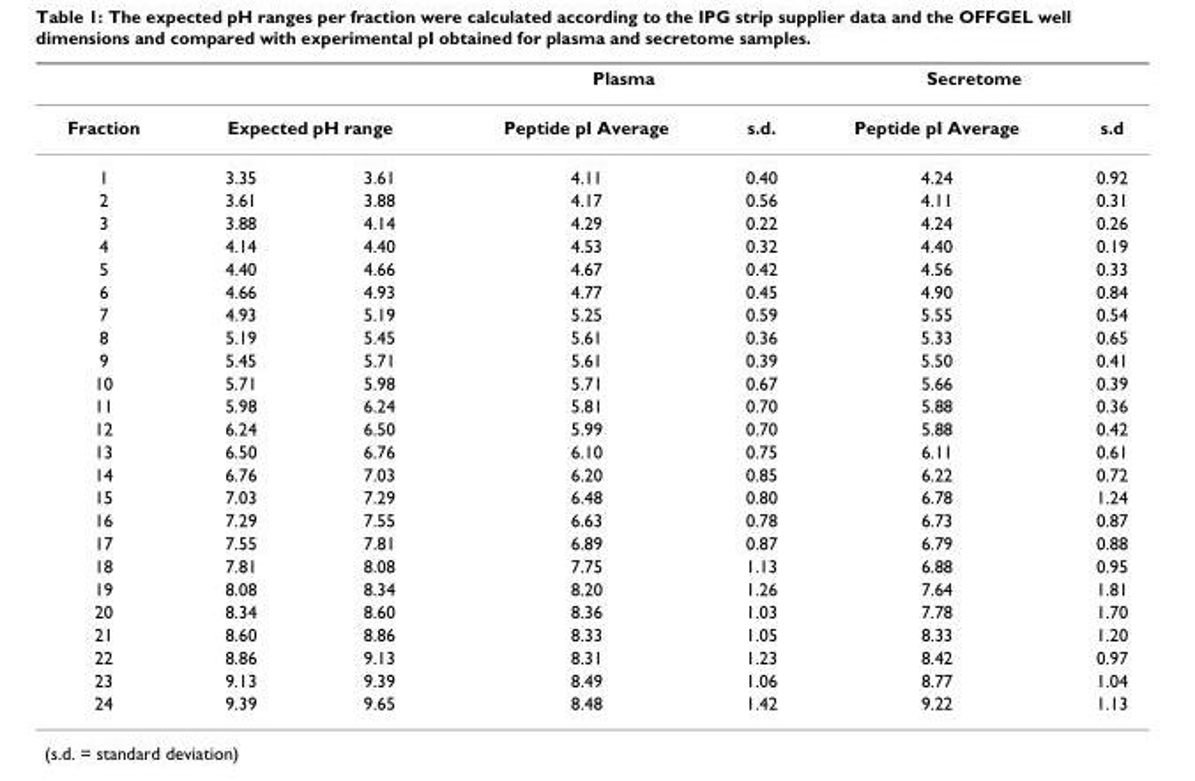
<table><thead><tr><td rowspan="2">Fraction</td><td></td><td></td><td colspan="2">Plasma</td><td colspan="2">Secretome</td></tr><tr><td colspan="2">Expected pH range</td><td>Peptide pI Average</td><td>s.d.</td><td>Peptide pI Average</td><td>s.d</td></tr></thead><tbody><tr><td>1</td><td>3.35</td><td>3.61</td><td>4.11</td><td>0.40</td><td>4.24</td><td>0.92</td></tr><tr><td>2</td><td>3.61</td><td>3.88</td><td>4.17</td><td>0.56</td><td>4.11</td><td>0.31</td></tr><tr><td>3</td><td>3.88</td><td>4.14</td><td>4.29</td><td>0.22</td><td>4.24</td><td>0.26</td></tr><tr><td>4</td><td>4.14</td><td>4.40</td><td>4.53</td><td>0.32</td><td>4.40</td><td>0.19</td></tr><tr><td>5</td><td>4.40</td><td>4.66</td><td>4.67</td><td>0.42</td><td>4.56</td><td>0.33</td></tr><tr><td>6</td><td>4.66</td><td>4.93</td><td>4.77</td><td>0.45</td><td>4.90</td><td>0.84</td></tr><tr><td>7</td><td>4.93</td><td>5.19</td><td>5.25</td><td>0.59</td><td>5.55</td><td>0.54</td></tr><tr><td>8</td><td>5.19</td><td>5.45</td><td>5.61</td><td>0.36</td><td>5.33</td><td>0.65</td></tr><tr><td>9</td><td>5.45</td><td>5.71</td><td>5.61</td><td>0.39</td><td>5.50</td><td>0.41</td></tr><tr><td>10</td><td>5.71</td><td>5.98</td><td>5.71</td><td>0.67</td><td>5.66</td><td>0.39</td></tr><tr><td>11</td><td>5.98</td><td>6.24</td><td>5.81</td><td>0.70</td><td>5.88</td><td>0.36</td></tr><tr><td>12</td><td>6.24</td><td>6.50</td><td>5.99</td><td>0.70</td><td>5.88</td><td>0.42</td></tr><tr><td>13</td><td>6.50</td><td>6.76</td><td>6.10</td><td>0.75</td><td>6.11</td><td>0.61</td></tr><tr><td>14</td><td>6.76</td><td>7.03</td><td>6.20</td><td>0.85</td><td>6.22</td><td>0.72</td></tr><tr><td>15</td><td>7.03</td><td>7.29</td><td>6.48</td><td>0.80</td><td>6.78</td><td>1.24</td></tr><tr><td>16</td><td>7.29</td><td>7.55</td><td>6.63</td><td>0.78</td><td>6.73</td><td>0.87</td></tr><tr><td>17</td><td>7.55</td><td>7.81</td><td>6.89</td><td>0.87</td><td>6.79</td><td>0.88</td></tr><tr><td>18</td><td>7.81</td><td>8.08</td><td>7.75</td><td>1.13</td><td>6.88</td><td>0.95</td></tr><tr><td>19</td><td>8.08</td><td>8.34</td><td>8.20</td><td>1.26</td><td>7.64</td><td>1.81</td></tr><tr><td>20</td><td>8.34</td><td>8.60</td><td>8.36</td><td>1.03</td><td>7.78</td><td>1.70</td></tr><tr><td>21</td><td>8.60</td><td>8.86</td><td>8.33</td><td>1.05</td><td>8.33</td><td>1.20</td></tr><tr><td>22</td><td>8.86</td><td>9.13</td><td>8.31</td><td>1.23</td><td>8.42</td><td>0.97</td></tr><tr><td>23</td><td>9.13</td><td>9.39</td><td>8.49</td><td>1.06</td><td>8.77</td><td>1.04</td></tr><tr><td>24</td><td>9.39</td><td>9.65</td><td>8.48</td><td>1.42</td><td>9.22</td><td>1.13</td></tr></tbody></table>